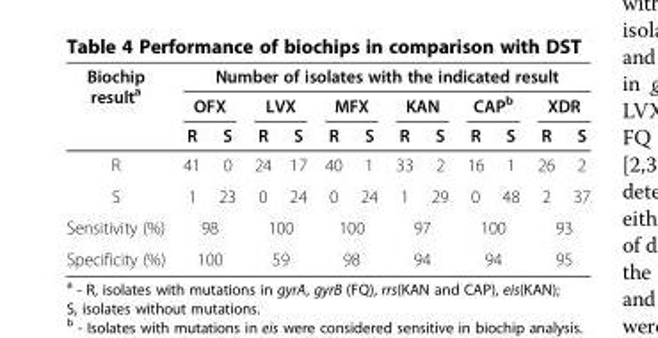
<table><thead><tr><td rowspan="3">Biochip result<sup>a</sup></td><td colspan="12">Number of isolates with the indicated result</td></tr><tr><td colspan="2">OFX</td><td colspan="2">LVX</td><td colspan="2">MFX</td><td colspan="2">KAN</td><td colspan="2">CAP<sup>b</sup></td><td colspan="2">XDR</td></tr><tr><td>R</td><td>S</td><td>R</td><td>S</td><td>R</td><td>S</td><td>R</td><td>S</td><td>R</td><td>S</td><td>R</td><td>S</td></tr></thead><tbody><tr><td>R</td><td>41</td><td>0</td><td>24</td><td>17</td><td>40</td><td>1</td><td>33</td><td>2</td><td>16</td><td>1</td><td>26</td><td>2</td></tr><tr><td>S</td><td>1</td><td>23</td><td>0</td><td>24</td><td>0</td><td>24</td><td>1</td><td>29</td><td>0</td><td>48</td><td>2</td><td>37</td></tr><tr><td>Sensitivity (%)</td><td colspan="2">98</td><td colspan="2">100</td><td colspan="2">100</td><td colspan="2">97</td><td colspan="2">100</td><td colspan="2">93</td></tr><tr><td>Specificity (%)</td><td colspan="2">100</td><td colspan="2">59</td><td colspan="2">98</td><td colspan="2">94</td><td colspan="2">94</td><td colspan="2">95</td></tr></tbody></table>